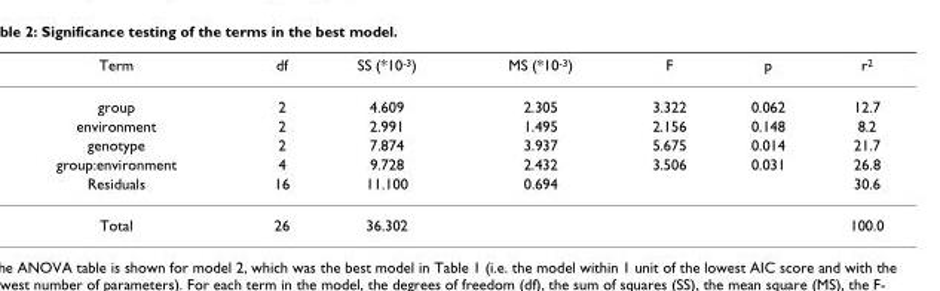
<table><thead><tr><td>Term</td><td>df</td><td>SS (*10<sup>-3</sup>)</td><td>MS (*10<sup>-3</sup>)</td><td>F</td><td>p</td><td>r<sup>2</sup></td></tr></thead><tbody><tr><td>group</td><td>2</td><td>4.609</td><td>2.305</td><td>3.322</td><td>0.062</td><td>12.7</td></tr><tr><td>environment</td><td>2</td><td>2.991</td><td>1.495</td><td>2.156</td><td>0.148</td><td>8.2</td></tr><tr><td>genotype</td><td>2</td><td>7.874</td><td>3.937</td><td>5.675</td><td>0.014</td><td>21.7</td></tr><tr><td>group:environment</td><td>4</td><td>9.728</td><td>2.432</td><td>3.506</td><td>0.031</td><td>26.8</td></tr><tr><td>Residuals</td><td>16</td><td>11.100</td><td>0.694</td><td></td><td></td><td>30.6</td></tr><tr><td>Total</td><td>26</td><td>36.302</td><td></td><td></td><td></td><td>100.0</td></tr></tbody></table>